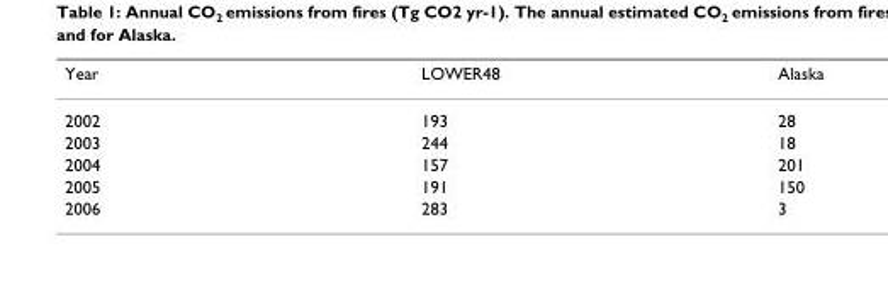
<table><thead><tr><td>Year</td><td>LOWER48</td><td>Alaska</td></tr></thead><tbody><tr><td>2002</td><td>193</td><td>28</td></tr><tr><td>2003</td><td>244</td><td>18</td></tr><tr><td>2004</td><td>157</td><td>201</td></tr><tr><td>2005</td><td>191</td><td>150</td></tr><tr><td>2006</td><td>283</td><td>3</td></tr></tbody></table>